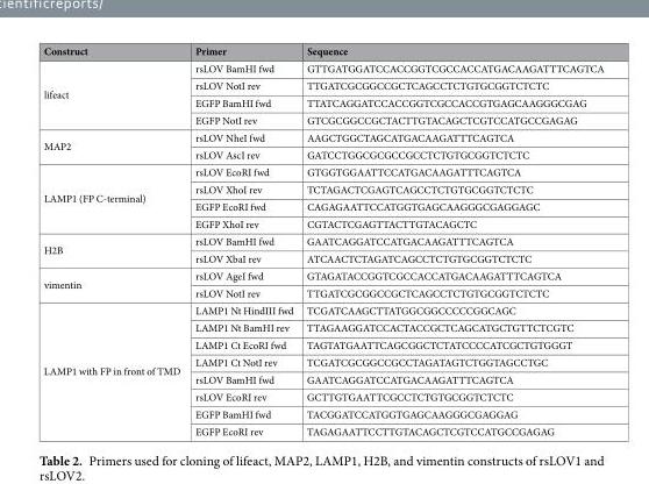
<table><thead><tr><td>Construct</td><td>Primer</td><td>Sequence</td></tr></thead><tbody><tr><td rowspan="4">lifeact</td><td>rsLOV BamHI fwd</td><td>GTTGATGGATCCACCGGTCGCCACCATGACAAGATTTCAGTCA</td></tr><tr><td>rsLOV NotI rev</td><td>TTGATCGCGGCCGCTCAGCCTCTGTGCGGTCTCTC</td></tr><tr><td>EGFP BamHI fwd</td><td>TTATCAGGATCCACCGGTCGCCACCGTGAGCAAGGGCGAG</td></tr><tr><td>EGFP NotI rev</td><td>GTCGCGGCCGCTACTTGTACAGCTCGTCCATGCCGAGAG</td></tr><tr><td rowspan="2">MAP2</td><td>rsLOV NheI fwd</td><td>AAGCTGGCTAGCATGACAAGATTTCAGTCA</td></tr><tr><td>rsLOV AscI rev</td><td>GATCCTGGCGCGCCGCCTCTGTGCGGTCTCTC</td></tr><tr><td rowspan="4">LAMP1 (FP C-terminal)</td><td>rsLOV EcoRI fwd</td><td>GTGGTGGAATTCCATGACAAGATTTCAGTCA</td></tr><tr><td>rsLOV XhoI rev</td><td>TCTAGACTCGAGTCAGCCTCTGTGCGGTCTCTC</td></tr><tr><td>EGFP EcoRI fwd</td><td>CAGAGAATTCCATGGTGAGCAAGGGCGAGGAGC</td></tr><tr><td>EGFP XhoI rev</td><td>CGTACTCGAGTTACTTGTACAGCTC</td></tr><tr><td rowspan="2">H2B</td><td>rsLOV BamHI fwd</td><td>GAATCAGGATCCATGACAAGATTTCAGTCA</td></tr><tr><td>rsLOV XbaI rev</td><td>ATCAACTCTAGATCAGCCTCTGTGCGGTCTCTC</td></tr><tr><td rowspan="2">vimentin</td><td>rsLOV AgeI fwd</td><td>GTAGATACCGGTCGCCACCATGACAAGATTTCAGTCA</td></tr><tr><td>rsLOV NotI rev</td><td>TTGATCGCGGCCGCTCAGCCTCTGTGCGGTCTCTC</td></tr><tr><td rowspan="8">LAMP1 with FP in front of TMD</td><td>LAMP1 Nt HindIII fwd</td><td>TCGATCAAGCTTATGGCGGCCCCCGGCAGC</td></tr><tr><td>LAMP1 Nt BamHI rev</td><td>TTAGAAGGATCCACTACCGCTCAGCATGCTGTTCTCGTC</td></tr><tr><td>LAMP1 Ct EcoRI fwd</td><td>TAGTATGAATTCAGCGGCTCTATCCCCATCGCTGTGGGT</td></tr><tr><td>LAMP1 Ct NotI rev</td><td>TCGATCGCGGCCGCCTAGATAGTCTGGTAGCCTGC</td></tr><tr><td>rsLOV BamHI fwd</td><td>GAATCAGGATCCATGACAAGATTTCAGTCA</td></tr><tr><td>rsLOV EcoRI rev</td><td>GCTTGTGAATTCGCCTCTGTGCGGTCTCTC</td></tr><tr><td>EGFP BamHI fwd</td><td>TACGGATCCATGGTGAGCAAGGGCGAGGAG</td></tr><tr><td>EGFP EcoRI rev</td><td>TAGAGAATTCCTTGTACAGCTCGTCCATGCCGAGAG</td></tr></tbody></table>